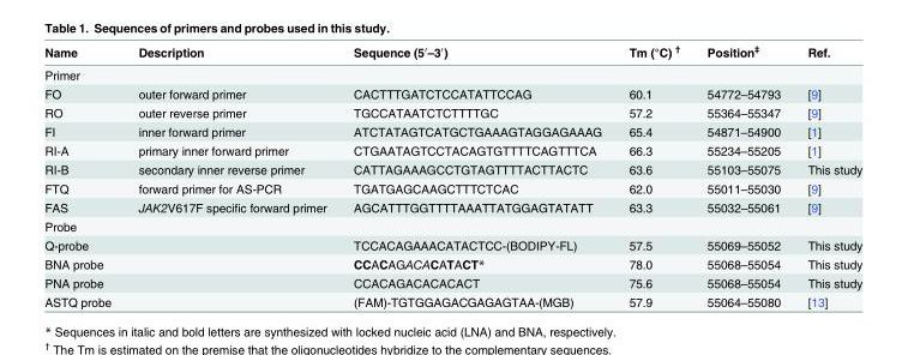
<table><thead><tr><td>Name</td><td>Description</td><td>Sequence (5′–3′)</td><td>Tm (°C) <sup>†</sup></td><td>Position<sup>‡</sup></td><td>Ref.</td></tr></thead><tbody><tr><td colspan="6">Primer</td></tr><tr><td>FO</td><td>outer forward primer</td><td>CACTTTGATCTCCATATTCCAG</td><td>60.1</td><td>54772–54793</td><td>[9]</td></tr><tr><td>RO</td><td>outer reverse primer</td><td>TGCCATAATCTCTTTTGC</td><td>57.2</td><td>55364–55347</td><td>[9]</td></tr><tr><td>FI</td><td>inner forward primer</td><td>ATCTATAGTCATGCTGAAAGTAGGAGAAAG</td><td>65.4</td><td>54871–54900</td><td>[1]</td></tr><tr><td>RI-A</td><td>primary inner forward primer</td><td>CTGAATAGTCCTACAGTGTTTTCAGTTTCA</td><td>66.3</td><td>55234–55205</td><td>[1]</td></tr><tr><td>RI-B</td><td>secondary inner reverse primer</td><td>CATTAGAAAGCCTGTAGTTTTACTTACTC</td><td>63.6</td><td>55103–55075</td><td>This study</td></tr><tr><td>FTQ</td><td>forward primer for AS-PCR</td><td>TGATGAGCAAGCTTTCTCAC</td><td>62.0</td><td>55011–55030</td><td>[9]</td></tr><tr><td>FAS</td><td>JAK2V617F specific forward primer</td><td>AGCATTTGGTTTTAAATTATGGAGTATATT</td><td>63.3</td><td>55032–55061</td><td>[9]</td></tr><tr><td colspan="6">Probe</td></tr><tr><td>Q-probe</td><td></td><td>TCCACAGAAACATACTCC-(BODIPY-FL)</td><td>57.5</td><td>55069–55052</td><td>This study</td></tr><tr><td>BNA probe</td><td></td><td>CCACAGACACATACT*</td><td>78.0</td><td>55068–55054</td><td>This study</td></tr><tr><td>PNA probe</td><td></td><td>CCACAGACACACACT</td><td>75.6</td><td>55068–55054</td><td>This study</td></tr><tr><td>ASTQ probe</td><td></td><td>(FAM)-TGTGGAGACGAGAGTAA-(MGB)</td><td>57.9</td><td>55064–55080</td><td>[13]</td></tr></tbody></table>